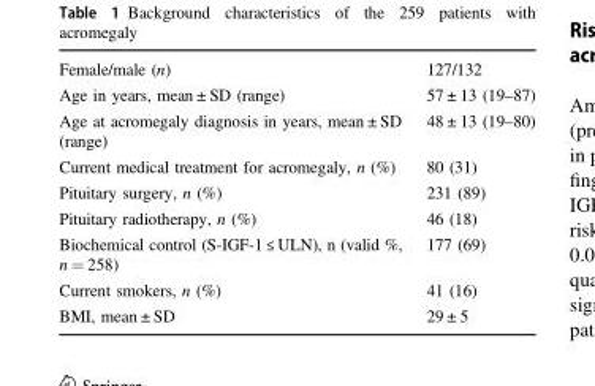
<table><tbody><tr><td>Female/male (n)</td><td>127/132</td></tr><tr><td>Age in years, mean ± SD (range)</td><td>57 ± 13 (19–87)</td></tr><tr><td>Age at acromegaly diagnosis in years, mean ± SD (range)</td><td>48 ± 13 (19–80)</td></tr><tr><td>Current medical treatment for acromegaly, n (%)</td><td>80 (31)</td></tr><tr><td>Pituitary surgery, n (%)</td><td>231 (89)</td></tr><tr><td>Pituitary radiotherapy, n (%)</td><td>46 (18)</td></tr><tr><td>Biochemical control (S-IGF-1 ≤ ULN), n (valid %, n = 258)</td><td>177 (69)</td></tr><tr><td>Current smokers, n (%)</td><td>41 (16)</td></tr><tr><td>BMI, mean ± SD</td><td>29 ± 5</td></tr></tbody></table>